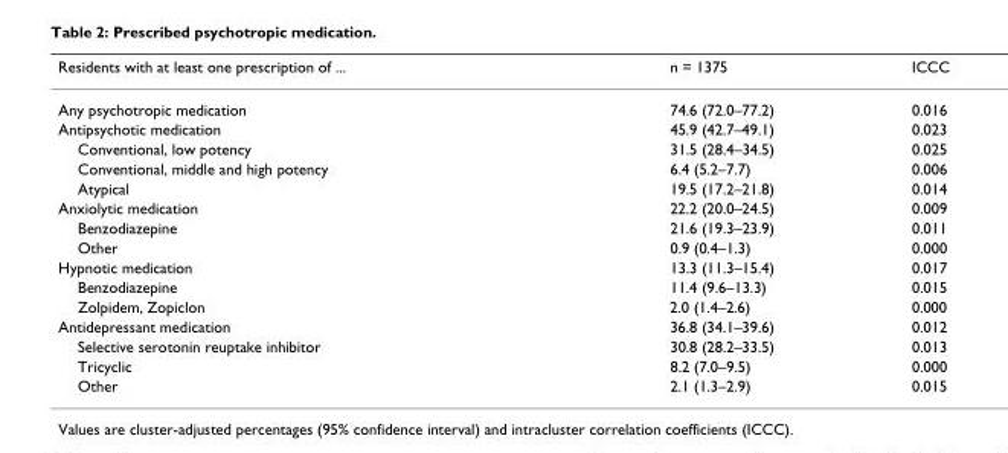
<table><thead><tr><td>Residents with at least one prescription of ...</td><td>n = 1375</td><td>ICCC</td></tr></thead><tbody><tr><td>Any psychotropic medication</td><td>74.6 (72.0–77.2)</td><td>0.016</td></tr><tr><td>Antipsychotic medication</td><td>45.9 (42.7–49.1)</td><td>0.023</td></tr><tr><td>Conventional, low potency</td><td>31.5 (28.4–34.5)</td><td>0.025</td></tr><tr><td>Conventional, middle and high potency</td><td>6.4 (5.2–7.7)</td><td>0.006</td></tr><tr><td>Atypical</td><td>19.5 (17.2–21.8)</td><td>0.014</td></tr><tr><td>Anxiolytic medication</td><td>22.2 (20.0–24.5)</td><td>0.009</td></tr><tr><td>Benzodiazepine</td><td>21.6 (19.3–23.9)</td><td>0.011</td></tr><tr><td>Other</td><td>0.9 (0.4–1.3)</td><td>0.000</td></tr><tr><td>Hypnotic medication</td><td>13.3 (11.3–15.4)</td><td>0.017</td></tr><tr><td>Benzodiazepine</td><td>11.4 (9.6–13.3)</td><td>0.015</td></tr><tr><td>Zolpidem, Zopiclon</td><td>2.0 (1.4–2.6)</td><td>0.000</td></tr><tr><td>Antidepressant medication</td><td>36.8 (34.1–39.6)</td><td>0.012</td></tr><tr><td>Selective serotonin reuptake inhibitor</td><td>30.8 (28.2–33.5)</td><td>0.013</td></tr><tr><td>Tricyclic</td><td>8.2 (7.0–9.5)</td><td>0.000</td></tr><tr><td>Other</td><td>2.1 (1.3–2.9)</td><td>0.015</td></tr></tbody></table>